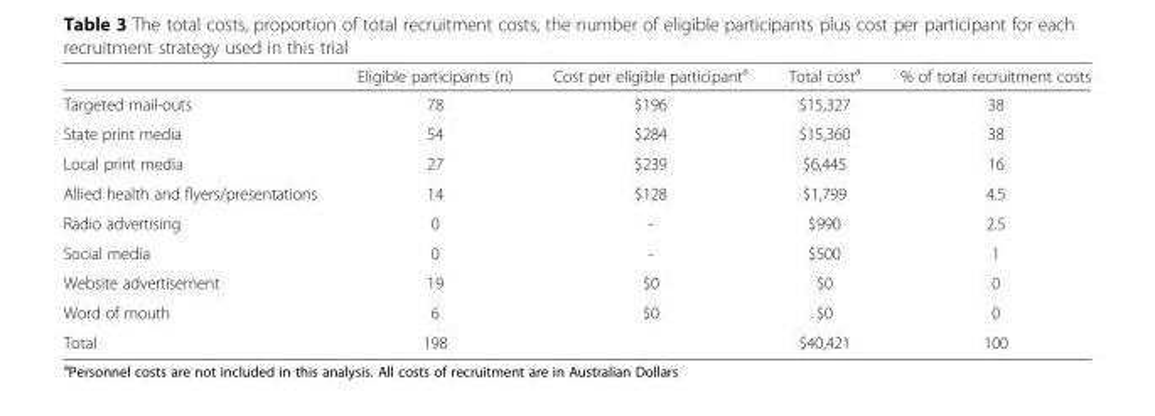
<table><thead><tr><td></td><td>Eligible participants (n)</td><td>Cost per eligible participant<sup>a</sup></td><td>Total cost<sup>a</sup></td><td>% of total recruitment costs</td></tr></thead><tbody><tr><td>Targeted mail-outs</td><td>78</td><td>$196</td><td>$15,327</td><td>38</td></tr><tr><td>State print media</td><td>54</td><td>$284</td><td>$15,360</td><td>38</td></tr><tr><td>Local print media</td><td>27</td><td>$239</td><td>$6,445</td><td>16</td></tr><tr><td>Allied health and flyers/presentations</td><td>14</td><td>$128</td><td>$1,799</td><td>4.5</td></tr><tr><td>Radio advertising</td><td>0</td><td>-</td><td>$990</td><td>2.5</td></tr><tr><td>Social media</td><td>0</td><td>-</td><td>$500</td><td>1</td></tr><tr><td>Website advertisement</td><td>19</td><td>$0</td><td>$0</td><td>0</td></tr><tr><td>Word of mouth</td><td>6</td><td>$0</td><td>$0</td><td>0</td></tr><tr><td>Total</td><td>198</td><td></td><td>$40,421</td><td>100</td></tr></tbody></table>